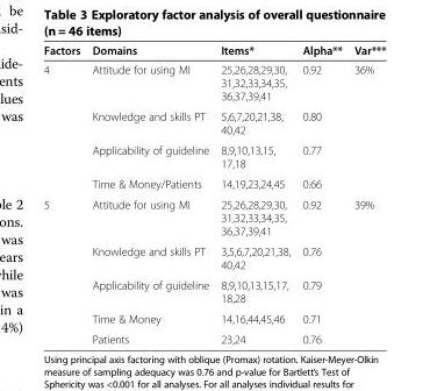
<table><thead><tr><td>Factors</td><td>Domains</td><td>Items*</td><td>Alpha**</td><td>Var***</td></tr></thead><tbody><tr><td rowspan="4">4</td><td>Attitude for using MI</td><td>25,26,28,29,30, 31,32,33,34,35, 36,37,39,41</td><td>0.92</td><td rowspan="4">36%</td></tr><tr><td>Knowledge and skills PT</td><td>5,6,7,20,21,38, 40,42</td><td>0.80</td></tr><tr><td>Applicability of guideline</td><td>8,9,10,13,15, 17,18</td><td>0.77</td></tr><tr><td>Time &amp; Money/Patients</td><td>14,19,23,24,45</td><td>0.66</td></tr><tr><td rowspan="5">5</td><td>Attitude for using MI</td><td>25,26,28,29,30, 31,32,33,34,35, 36,37,39,41</td><td>0.92</td><td rowspan="5">39%</td></tr><tr><td>Knowledge and skills PT</td><td>3,5,6,7,20,21,38, 40,42</td><td>0.76</td></tr><tr><td>Applicability of guideline</td><td>8,9,10,13,15,17, 18,28</td><td>0.79</td></tr><tr><td>Time &amp; Money</td><td>14,16,44,45,46</td><td>0.71</td></tr><tr><td>Patients</td><td>23,24</td><td>0.76</td></tr></tbody></table>